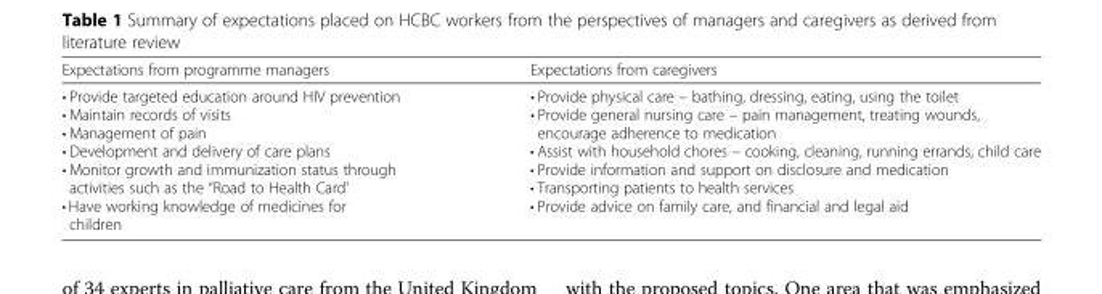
<table><thead><tr><td>Expectations from programme managers</td><td>Expectations from caregivers</td></tr></thead><tbody><tr><td>• Provide targeted education around HIV prevention • Maintain records of visits • Management of pain • Development and delivery of care plans • Monitor growth and immunization status through activities such as the “Road to Health Card&#x27; • Have working knowledge of medicines for children</td><td>• Provide physical care – bathing, dressing, eating, using the toilet • Provide general nursing care – pain management, treating wounds, encourage adherence to medication • Assist with household chores – cooking, cleaning, running errands, child care • Provide information and support on disclosure and medication • Transporting patients to health services • Provide advice on family care, and financial and legal aid</td></tr></tbody></table>